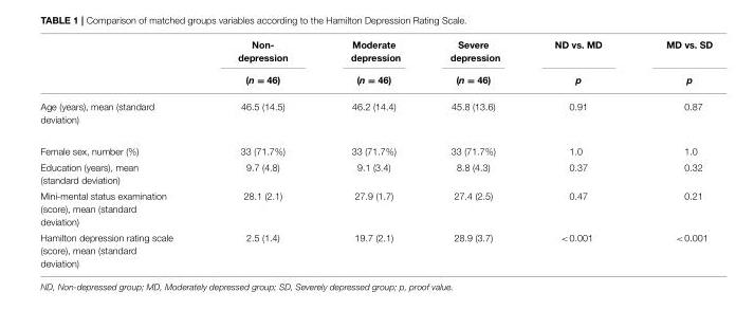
<table><thead><tr><td rowspan="2"></td><td rowspan="2">Non- depression (n = 46)</td><td rowspan="2">Moderate depression (n = 46)</td><td rowspan="2">Severe depression (n = 46)</td><td rowspan="2">ND vs. MD p</td><td rowspan="2">MD vs. SD p</td></tr><tr></tr></thead><tbody><tr><td>Age (years), mean (standard deviation)</td><td>46.5 (14.5)</td><td>46.2 (14.4)</td><td>45.8 (13.6)</td><td>0.91</td><td>0.87</td></tr><tr><td>Female sex, number (%)</td><td>33 (71.7%)</td><td>33 (71.7%)</td><td>33 (71.7%)</td><td>1.0</td><td>1.0</td></tr><tr><td>Education (years), mean (standard deviation)</td><td>9.7 (4.8)</td><td>9.1 (3.4)</td><td>8.8 (4.3)</td><td>0.37</td><td>0.32</td></tr><tr><td>Mini-mental status examination (score), mean (standard deviation)</td><td>28.1 (2.1)</td><td>27.9 (1.7)</td><td>27.4 (2.5)</td><td>0.47</td><td>0.21</td></tr><tr><td>Hamilton depression rating scale (score), mean (standard deviation)</td><td>2.5 (1.4)</td><td>19.7 (2.1)</td><td>28.9 (3.7)</td><td>&lt;0.001</td><td>&lt;0.001</td></tr></tbody></table>